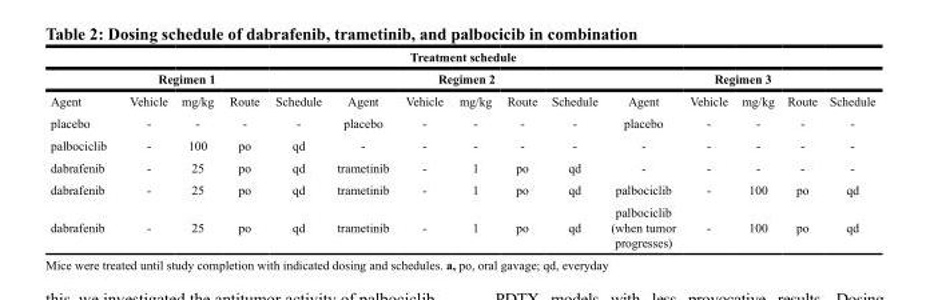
<table><thead><tr><td colspan="15">Treatment schedule</td></tr><tr><td colspan="5">Regimen 1</td><td colspan="5">Regimen 2</td><td colspan="5">Regimen 3</td></tr><tr><td>Agent</td><td>Vehicle</td><td>mg/kg</td><td>Route</td><td>Schedule</td><td>Agent</td><td>Vehicle</td><td>mg/kg</td><td>Route</td><td>Schedule</td><td>Agent</td><td>Vehicle</td><td>mg/kg</td><td>Route</td><td>Schedule</td></tr></thead><tbody><tr><td>placebo</td><td>-</td><td>-</td><td>-</td><td>-</td><td>placebo</td><td>-</td><td>-</td><td>-</td><td>-</td><td>placebo</td><td>-</td><td>-</td><td>-</td><td>-</td></tr><tr><td>palbociclib</td><td>-</td><td>100</td><td>po</td><td>qd</td><td>-</td><td>-</td><td>-</td><td>-</td><td>-</td><td>-</td><td>-</td><td>-</td><td>-</td><td>-</td></tr><tr><td>dabrafenib</td><td>-</td><td>25</td><td>po</td><td>qd</td><td>trametinib</td><td>-</td><td>1</td><td>po</td><td>qd</td><td>-</td><td>-</td><td>-</td><td>-</td><td>-</td></tr><tr><td>dabrafenib</td><td>-</td><td>25</td><td>po</td><td>qd</td><td>trametinib</td><td>-</td><td>1</td><td>po</td><td>qd</td><td>palbociclib</td><td>-</td><td>100</td><td>po</td><td>qd</td></tr><tr><td>dabrafenib</td><td>-</td><td>25</td><td>po</td><td>qd</td><td>trametinib</td><td>-</td><td>1</td><td>po</td><td>qd</td><td>palbociclib (when tumor progresses)</td><td>-</td><td>100</td><td>po</td><td>qd</td></tr></tbody></table>